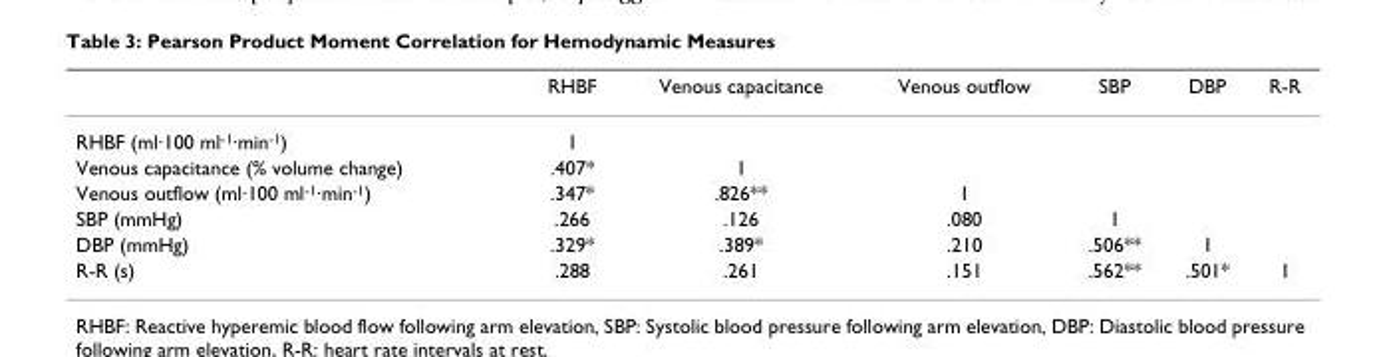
<table><thead><tr><td></td><td>RHBF</td><td>Venous capacitance</td><td>Venous outflow</td><td>SBP</td><td>DBP</td><td>R-R</td></tr></thead><tbody><tr><td>RHBF (ml·100 ml<sup>-1</sup>·min<sup>-1</sup>)</td><td>1</td><td></td><td></td><td></td><td></td><td></td></tr><tr><td>Venous capacitance (% volume change)</td><td>.407*</td><td>1</td><td></td><td></td><td></td><td></td></tr><tr><td>Venous outflow (ml·100 ml<sup>-1</sup>·min<sup>-1</sup>)</td><td>.347*</td><td>.826**</td><td>1</td><td></td><td></td><td></td></tr><tr><td>SBP (mmHg)</td><td>.266</td><td>.126</td><td>.080</td><td>1</td><td></td><td></td></tr><tr><td>DBP (mmHg)</td><td>.329*</td><td>.389*</td><td>.210</td><td>.506**</td><td>1</td><td></td></tr><tr><td>R-R (s)</td><td>.288</td><td>.261</td><td>.151</td><td>.562**</td><td>.501*</td><td>1</td></tr></tbody></table>